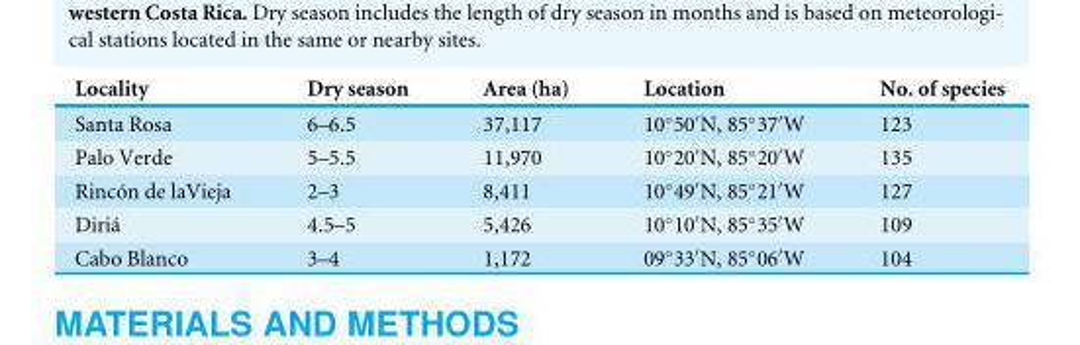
<table><thead><tr><td>Locality</td><td>Dry season</td><td>Area (ha)</td><td>Location</td><td>No. of species</td></tr></thead><tbody><tr><td>Santa Rosa</td><td>6–6.5</td><td>37,117</td><td>10◦50′N, 85◦37′W</td><td>123</td></tr><tr><td>Palo Verde</td><td>5–5.5</td><td>11,970</td><td>10◦20′N, 85◦20′W</td><td>135</td></tr><tr><td>Rincón de laVieja</td><td>2–3</td><td>8,411</td><td>10◦49′N, 85◦21′W</td><td>127</td></tr><tr><td>Diriá</td><td>4.5–5</td><td>5,426</td><td>10◦10′N, 85◦35′W</td><td>109</td></tr><tr><td>Cabo Blanco</td><td>3–4</td><td>1,172</td><td>09◦33′N, 85◦06′W</td><td>104</td></tr></tbody></table>